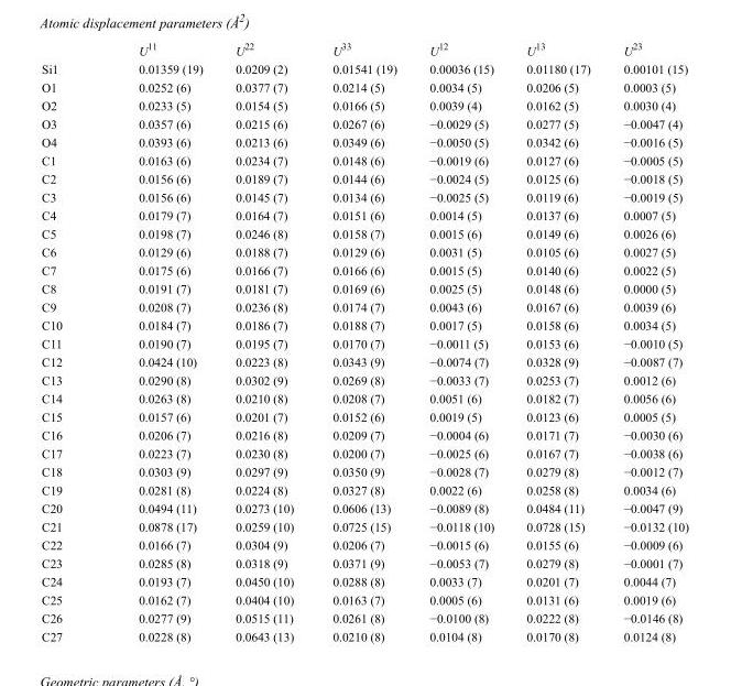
<table><thead><tr><td></td><td>U<sup>11</sup></td><td>U<sup>22</sup></td><td>U<sup>33</sup></td><td>U<sup>12</sup></td><td>U<sup>13</sup></td><td>U<sup>23</sup></td></tr></thead><tbody><tr><td>Si1</td><td>0.01359 (19)</td><td>0.0209 (2)</td><td>0.01541 (19)</td><td>0.00036 (15)</td><td>0.01180 (17)</td><td>0.00101 (15)</td></tr><tr><td>O1</td><td>0.0252 (6)</td><td>0.0377 (7)</td><td>0.0214 (5)</td><td>0.0034 (5)</td><td>0.0206 (5)</td><td>0.0003 (5)</td></tr><tr><td>O2</td><td>0.0233 (5)</td><td>0.0154 (5)</td><td>0.0166 (5)</td><td>0.0039 (4)</td><td>0.0162 (5)</td><td>0.0030 (4)</td></tr><tr><td>O3</td><td>0.0357 (6)</td><td>0.0215 (6)</td><td>0.0267 (6)</td><td>−0.0029 (5)</td><td>0.0277 (5)</td><td>−0.0047 (4)</td></tr><tr><td>O4</td><td>0.0393 (6)</td><td>0.0213 (6)</td><td>0.0349 (6)</td><td>−0.0050 (5)</td><td>0.0342 (6)</td><td>−0.0016 (5)</td></tr><tr><td>C1</td><td>0.0163 (6)</td><td>0.0234 (7)</td><td>0.0148 (6)</td><td>−0.0019 (6)</td><td>0.0127 (6)</td><td>−0.0005 (5)</td></tr><tr><td>C2</td><td>0.0156 (6)</td><td>0.0189 (7)</td><td>0.0144 (6)</td><td>−0.0024 (5)</td><td>0.0125 (6)</td><td>−0.0018 (5)</td></tr><tr><td>C3</td><td>0.0156 (6)</td><td>0.0145 (7)</td><td>0.0134 (6)</td><td>−0.0025 (5)</td><td>0.0119 (6)</td><td>−0.0019 (5)</td></tr><tr><td>C4</td><td>0.0179 (7)</td><td>0.0164 (7)</td><td>0.0151 (6)</td><td>0.0014 (5)</td><td>0.0137 (6)</td><td>0.0007 (5)</td></tr><tr><td>C5</td><td>0.0198 (7)</td><td>0.0246 (8)</td><td>0.0158 (7)</td><td>0.0015 (6)</td><td>0.0149 (6)</td><td>0.0026 (6)</td></tr><tr><td>C6</td><td>0.0129 (6)</td><td>0.0188 (7)</td><td>0.0129 (6)</td><td>0.0031 (5)</td><td>0.0105 (6)</td><td>0.0027 (5)</td></tr><tr><td>C7</td><td>0.0175 (6)</td><td>0.0166 (7)</td><td>0.0166 (6)</td><td>0.0015 (5)</td><td>0.0140 (6)</td><td>0.0022 (5)</td></tr><tr><td>C8</td><td>0.0191 (7)</td><td>0.0181 (7)</td><td>0.0169 (6)</td><td>0.0025 (5)</td><td>0.0148 (6)</td><td>0.0000 (5)</td></tr><tr><td>C9</td><td>0.0208 (7)</td><td>0.0236 (8)</td><td>0.0174 (7)</td><td>0.0043 (6)</td><td>0.0167 (6)</td><td>0.0039 (6)</td></tr><tr><td>C10</td><td>0.0184 (7)</td><td>0.0186 (7)</td><td>0.0188 (7)</td><td>0.0017 (5)</td><td>0.0158 (6)</td><td>0.0034 (5)</td></tr><tr><td>C11</td><td>0.0190 (7)</td><td>0.0195 (7)</td><td>0.0170 (7)</td><td>−0.0011 (5)</td><td>0.0153 (6)</td><td>−0.0010 (5)</td></tr><tr><td>C12</td><td>0.0424 (10)</td><td>0.0223 (8)</td><td>0.0343 (9)</td><td>−0.0074 (7)</td><td>0.0328 (9)</td><td>−0.0087 (7)</td></tr><tr><td>C13</td><td>0.0290 (8)</td><td>0.0302 (9)</td><td>0.0269 (8)</td><td>−0.0033 (7)</td><td>0.0253 (7)</td><td>0.0012 (6)</td></tr><tr><td>C14</td><td>0.0263 (8)</td><td>0.0210 (8)</td><td>0.0208 (7)</td><td>0.0051 (6)</td><td>0.0182 (7)</td><td>0.0056 (6)</td></tr><tr><td>C15</td><td>0.0157 (6)</td><td>0.0201 (7)</td><td>0.0152 (6)</td><td>0.0019 (5)</td><td>0.0123 (6)</td><td>0.0005 (5)</td></tr><tr><td>C16</td><td>0.0206 (7)</td><td>0.0216 (8)</td><td>0.0209 (7)</td><td>−0.0004 (6)</td><td>0.0171 (7)</td><td>−0.0030 (6)</td></tr><tr><td>C17</td><td>0.0223 (7)</td><td>0.0230 (8)</td><td>0.0200 (7)</td><td>−0.0025 (6)</td><td>0.0167 (7)</td><td>−0.0038 (6)</td></tr><tr><td>C18</td><td>0.0303 (9)</td><td>0.0297 (9)</td><td>0.0350 (9)</td><td>−0.0028 (7)</td><td>0.0279 (8)</td><td>−0.0012 (7)</td></tr><tr><td>C19</td><td>0.0281 (8)</td><td>0.0224 (8)</td><td>0.0327 (8)</td><td>0.0022 (6)</td><td>0.0258 (8)</td><td>0.0034 (6)</td></tr><tr><td>C20</td><td>0.0494 (11)</td><td>0.0273 (10)</td><td>0.0606 (13)</td><td>−0.0089 (8)</td><td>0.0484 (11)</td><td>−0.0047 (9)</td></tr><tr><td>C21</td><td>0.0878 (17)</td><td>0.0259 (10)</td><td>0.0725 (15)</td><td>−0.0118 (10)</td><td>0.0728 (15)</td><td>−0.0132 (10)</td></tr><tr><td>C22</td><td>0.0166 (7)</td><td>0.0304 (9)</td><td>0.0206 (7)</td><td>−0.0015 (6)</td><td>0.0155 (6)</td><td>−0.0009 (6)</td></tr><tr><td>C23</td><td>0.0285 (8)</td><td>0.0318 (9)</td><td>0.0371 (9)</td><td>−0.0053 (7)</td><td>0.0279 (8)</td><td>−0.0001 (7)</td></tr><tr><td>C24</td><td>0.0193 (7)</td><td>0.0450 (10)</td><td>0.0288 (8)</td><td>0.0033 (7)</td><td>0.0201 (7)</td><td>0.0044 (7)</td></tr><tr><td>C25</td><td>0.0162 (7)</td><td>0.0404 (10)</td><td>0.0163 (7)</td><td>0.0005 (6)</td><td>0.0131 (6)</td><td>0.0019 (6)</td></tr><tr><td>C26</td><td>0.0277 (9)</td><td>0.0515 (11)</td><td>0.0261 (8)</td><td>−0.0100 (8)</td><td>0.0222 (8)</td><td>−0.0146 (8)</td></tr><tr><td>C27</td><td>0.0228 (8)</td><td>0.0643 (13)</td><td>0.0210 (8)</td><td>0.0104 (8)</td><td>0.0170 (8)</td><td>0.0124 (8)</td></tr></tbody></table>